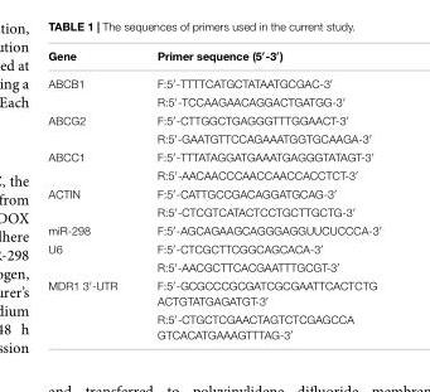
<table><thead><tr><td>Gene</td><td>Primer sequence (5′-3′)</td></tr></thead><tbody><tr><td rowspan="2">ABCB1</td><td>F:5′-TTTTCATGCTATAATGCGAC-3′</td></tr><tr><td>R:5′-TCCAAGAACAGGACTGATGG-3′</td></tr><tr><td rowspan="2">ABCG2</td><td>F:5′-CTTGGCTGAGGGTTTGGAACT-3′</td></tr><tr><td>R:5′-GAATGTTCCAGAAATGGTGCAAGA-3′</td></tr><tr><td rowspan="2">ABCC1</td><td>F:5′-TTTATAGGATGAAATGAGGGTATAGT-3′</td></tr><tr><td>R:5′-AACAACCCAACCAACCACCTCT-3′</td></tr><tr><td rowspan="2">ACTIN</td><td>F:5′-CATTGCCGACAGGATGCAG-3′</td></tr><tr><td>R:5′-CTCGTCATACTCCTGCTTGCTG-3′</td></tr><tr><td>miR-298</td><td>F:5′-AGCAGAAGCAGGGAGGUUCUCCCA-3′</td></tr><tr><td rowspan="2">U6</td><td>F:5′-CTCGCTTCGGCAGCACA-3′</td></tr><tr><td>R:5′-AACGCTTCACGAATTTGCGT-3′</td></tr><tr><td rowspan="2">MDR1 3′-UTR</td><td>F:5′-GCGCCCGCGATCGCGAATTCACTCTG ACTGTATGAGATGT-3′</td></tr><tr><td>R:5′-CTGCTCGAACTAGTCTCGAGCCA GTCACATGAAAGTTTAG-3′</td></tr></tbody></table>